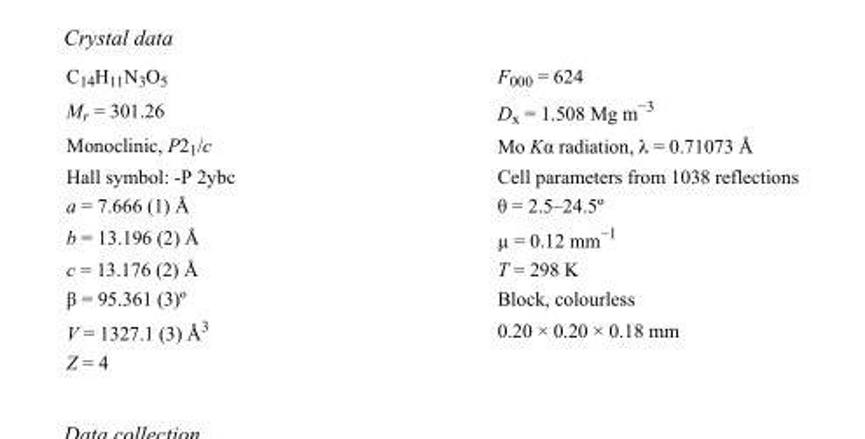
<table><tbody><tr><td>C<sub>14</sub>H<sub>11</sub>N<sub>3</sub>O<sub>5</sub></td><td>F000 = 624</td></tr><tr><td>M<sub>r</sub> = 301.26</td><td>D<sub>x</sub> = 1.508 Mg m<sup>−3</sup></td></tr><tr><td>Monoclinic, P2<sub>1</sub>/c</td><td>Mo Kα radiation, λ = 0.71073 Å</td></tr><tr><td>Hall symbol: -P 2ybc</td><td>Cell parameters from 1038 reflections</td></tr><tr><td>a = 7.666 (1) Å</td><td>θ = 2.5–24.5º</td></tr><tr><td>b = 13.196 (2) Å</td><td>µ = 0.12 mm<sup>−1</sup></td></tr><tr><td>c = 13.176 (2) Å</td><td>T = 298 K</td></tr><tr><td>β = 95.361 (3)º</td><td>Block, colourless</td></tr><tr><td>V = 1327.1 (3) Å<sup>3</sup></td><td>0.20 × 0.20 × 0.18 mm</td></tr><tr><td>Z = 4</td><td></td></tr></tbody></table>